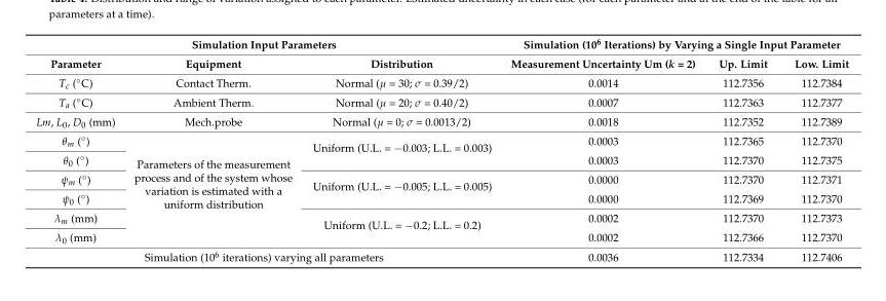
<table><thead><tr><td colspan="3">Simulation Input Parameters</td><td colspan="3">Simulation (10<sup>6</sup> Iterations) by Varying a Single Input Parameter</td></tr><tr><td>Parameter</td><td>Equipment</td><td>Distribution</td><td>Measurement Uncertainty Um (k = 2)</td><td>Up. Limit</td><td>Low. Limit</td></tr></thead><tbody><tr><td>Tc (◦C)</td><td>Contact Therm.</td><td>Normal (µ = 30; σ = 0.39/2)</td><td>0.0014</td><td>112.7356</td><td>112.7384</td></tr><tr><td>Ta (◦C)</td><td>Ambient Therm.</td><td>Normal (µ = 20; σ = 0.40/2)</td><td>0.0007</td><td>112.7363</td><td>112.7377</td></tr><tr><td>Lm, L<sub>0</sub>, D<sub>0</sub> (mm)</td><td>Mech.probe</td><td>Normal (µ = 0; σ = 0.0013/2)</td><td>0.0018</td><td>112.7352</td><td>112.7389</td></tr><tr><td>θm (◦)</td><td rowspan="6">Parameters of the measurement process and of the system whose variation is estimated with a uniform distribution</td><td rowspan="2">Uniform (U.L. = −0.003; L.L. = 0.003)</td><td>0.0003</td><td>112.7365</td><td>112.7370</td></tr><tr><td>θ0 (◦)</td><td>0.0003</td><td>112.7370</td><td>112.7375</td></tr><tr><td>ψm (◦)</td><td rowspan="2">Uniform (U.L. = −0.005; L.L. = 0.005)</td><td>0.0000</td><td>112.7370</td><td>112.7371</td></tr><tr><td>ψ0 (◦)</td><td>0.0000</td><td>112.7369</td><td>112.7370</td></tr><tr><td>λ<sub>m</sub> (mm)</td><td rowspan="2">Uniform (U.L. = −0.2; L.L. = 0.2)</td><td>0.0002</td><td>112.7370</td><td>112.7373</td></tr><tr><td>λ<sub>0</sub> (mm)</td><td>0.0002</td><td>112.7366</td><td>112.7370</td></tr><tr><td colspan="3">Simulation (10<sup>6</sup> iterations) varying all parameters</td><td>0.0036</td><td>112.7334</td><td>112.7406</td></tr></tbody></table>